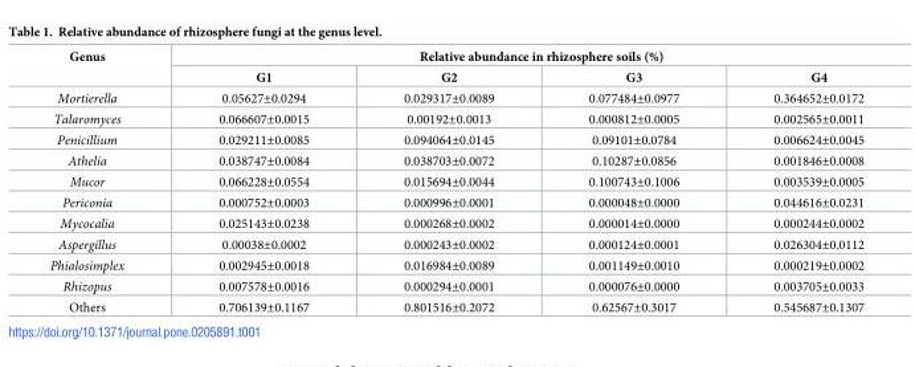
<table><thead><tr><td rowspan="2">Genus</td><td colspan="4">Relative abundance in rhizosphere soils (%)</td></tr><tr><td>G1</td><td>G2</td><td>G3</td><td>G4</td></tr></thead><tbody><tr><td>Mortierella</td><td>0.05627±0.0294</td><td>0.029317±0.0089</td><td>0.077484±0.0977</td><td>0.364652±0.0172</td></tr><tr><td>Talaromyces</td><td>0.066607±0.0015</td><td>0.00192±0.0013</td><td>0.000812±0.0005</td><td>0.002565±0.0011</td></tr><tr><td>Penicillium</td><td>0.029211±0.0085</td><td>0.094064±0.0145</td><td>0.09101±0.0784</td><td>0.006624±0.0045</td></tr><tr><td>Athelia</td><td>0.038747±0.0084</td><td>0.038703±0.0072</td><td>0.10287±0.0856</td><td>0.001846±0.0008</td></tr><tr><td>Mucor</td><td>0.066228±0.0554</td><td>0.015694±0.0044</td><td>0.100743±0.1006</td><td>0.003539±0.0005</td></tr><tr><td>Periconia</td><td>0.000752±0.0003</td><td>0.000996±0.0001</td><td>0.000048±0.0000</td><td>0.044616±0.0231</td></tr><tr><td>Mycocalia</td><td>0.025143±0.0238</td><td>0.000268±0.0002</td><td>0.000014±0.0000</td><td>0.000244±0.0002</td></tr><tr><td>Aspergillus</td><td>0.00038±0.0002</td><td>0.000243±0.0002</td><td>0.000124±0.0001</td><td>0.026304±0.0112</td></tr><tr><td>Phialosimplex</td><td>0.002945±0.0018</td><td>0.016984±0.0089</td><td>0.001149±0.0010</td><td>0.000219±0.0002</td></tr><tr><td>Rhizopus</td><td>0.007578±0.0016</td><td>0.000294±0.0001</td><td>0.000076±0.0000</td><td>0.003705±0.0033</td></tr><tr><td>Others</td><td>0.706139±0.1167</td><td>0.801516±0.2072</td><td>0.62567±0.3017</td><td>0.545687±0.1307</td></tr></tbody></table>